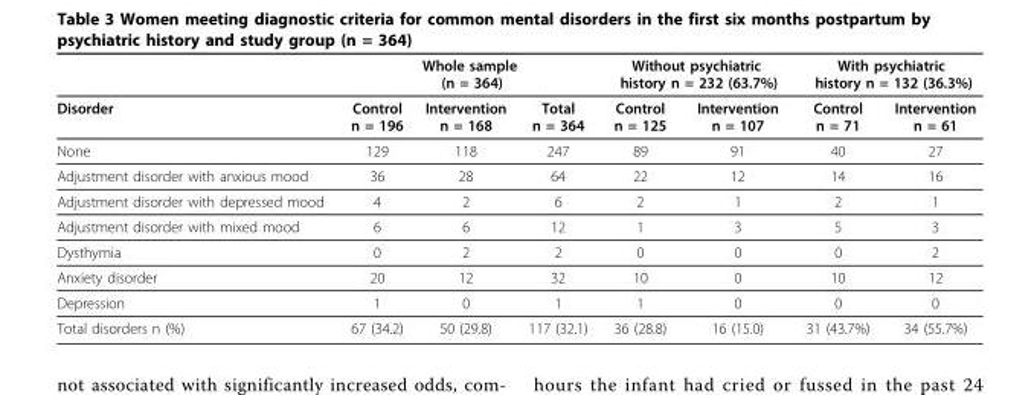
<table><thead><tr><td rowspan="2">Disorder</td><td colspan="3">Whole sample (n = 364)</td><td colspan="2">Without psychiatric history n = 232 (63.7%)</td><td colspan="2">With psychiatric history n = 132 (36.3%)</td></tr><tr><td>Control n = 196</td><td>Intervention n = 168</td><td>Total n = 364</td><td>Control n = 125</td><td>Intervention n = 107</td><td>Control n = 71</td><td>Intervention n = 61</td></tr></thead><tbody><tr><td>None</td><td>129</td><td>118</td><td>247</td><td>89</td><td>91</td><td>40</td><td>27</td></tr><tr><td>Adjustment disorder with anxious mood</td><td>36</td><td>28</td><td>64</td><td>22</td><td>12</td><td>14</td><td>16</td></tr><tr><td>Adjustment disorder with depressed mood</td><td>4</td><td>2</td><td>6</td><td>2</td><td>1</td><td>2</td><td>1</td></tr><tr><td>Adjustment disorder with mixed mood</td><td>6</td><td>6</td><td>12</td><td>1</td><td>3</td><td>5</td><td>3</td></tr><tr><td>Dysthymia</td><td>0</td><td>2</td><td>2</td><td>0</td><td>0</td><td>0</td><td>2</td></tr><tr><td>Anxiety disorder</td><td>20</td><td>12</td><td>32</td><td>10</td><td>0</td><td>10</td><td>12</td></tr><tr><td>Depression</td><td>1</td><td>0</td><td>1</td><td>1</td><td>0</td><td>0</td><td>0</td></tr><tr><td>Total disorders n (%)</td><td>67 (34.2)</td><td>50 (29.8)</td><td>117 (32.1)</td><td>36 (28.8)</td><td>16 (15.0)</td><td>31 (43.7%)</td><td>34 (55.7%)</td></tr></tbody></table>